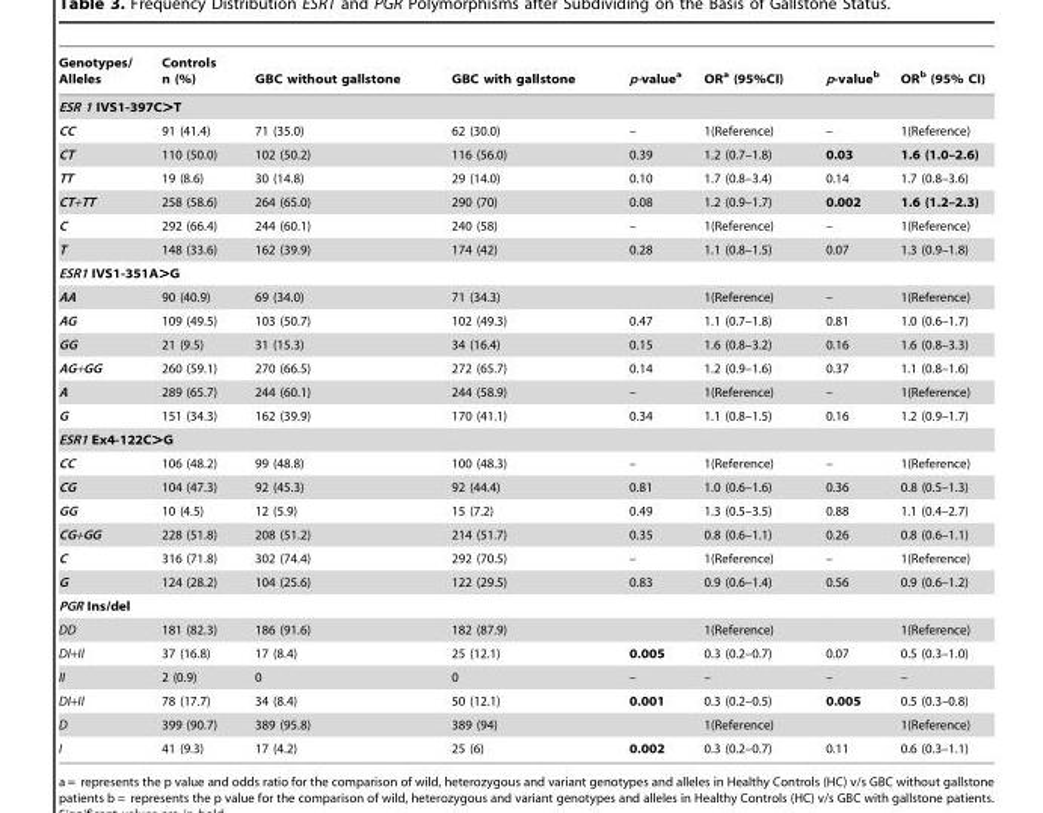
<table><thead><tr><td>Genotypes/ Alleles</td><td>Controls n (%)</td><td>GBC without gallstone</td><td>GBC with gallstone</td><td>p-value<sup>a</sup></td><td>OR<sup>a</sup> (95%CI)</td><td>p-value<sup>b</sup></td><td>OR<sup>b</sup> (95% CI)</td></tr></thead><tbody><tr><td colspan="8">ESR 1 IVS1-397C&gt;T</td></tr><tr><td>CC</td><td>91 (41.4)</td><td>71 (35.0)</td><td>62 (30.0)</td><td>–</td><td>1(Reference)</td><td>–</td><td>1(Reference)</td></tr><tr><td>CT</td><td>110 (50.0)</td><td>102 (50.2)</td><td>116 (56.0)</td><td>0.39</td><td>1.2 (0.7–1.8)</td><td>0.03</td><td>1.6 (1.0–2.6)</td></tr><tr><td>TT</td><td>19 (8.6)</td><td>30 (14.8)</td><td>29 (14.0)</td><td>0.10</td><td>1.7 (0.8–3.4)</td><td>0.14</td><td>1.7 (0.8–3.6)</td></tr><tr><td>CT+TT</td><td>258 (58.6)</td><td>264 (65.0)</td><td>290 (70)</td><td>0.08</td><td>1.2 (0.9–1.7)</td><td>0.002</td><td>1.6 (1.2–2.3)</td></tr><tr><td>C</td><td>292 (66.4)</td><td>244 (60.1)</td><td>240 (58)</td><td>–</td><td>1(Reference)</td><td>–</td><td>1(Reference)</td></tr><tr><td>T</td><td>148 (33.6)</td><td>162 (39.9)</td><td>174 (42)</td><td>0.28</td><td>1.1 (0.8–1.5)</td><td>0.07</td><td>1.3 (0.9–1.8)</td></tr><tr><td colspan="8">ESR1 IVS1-351A&gt;G</td></tr><tr><td>AA</td><td>90 (40.9)</td><td>69 (34.0)</td><td>71 (34.3)</td><td></td><td>1(Reference)</td><td>–</td><td>1(Reference)</td></tr><tr><td>AG</td><td>109 (49.5)</td><td>103 (50.7)</td><td>102 (49.3)</td><td>0.47</td><td>1.1 (0.7–1.8)</td><td>0.81</td><td>1.0 (0.6–1.7)</td></tr><tr><td>GG</td><td>21 (9.5)</td><td>31 (15.3)</td><td>34 (16.4)</td><td>0.15</td><td>1.6 (0.8–3.2)</td><td>0.16</td><td>1.6 (0.8–3.3)</td></tr><tr><td>AG+GG</td><td>260 (59.1)</td><td>270 (66.5)</td><td>272 (65.7)</td><td>0.14</td><td>1.2 (0.9–1.6)</td><td>0.37</td><td>1.1 (0.8–1.6)</td></tr><tr><td>A</td><td>289 (65.7)</td><td>244 (60.1)</td><td>244 (58.9)</td><td>–</td><td>1(Reference)</td><td>–</td><td>1(Reference)</td></tr><tr><td>G</td><td>151 (34.3)</td><td>162 (39.9)</td><td>170 (41.1)</td><td>0.34</td><td>1.1 (0.8–1.5)</td><td>0.16</td><td>1.2 (0.9–1.7)</td></tr><tr><td colspan="8">ESR1 Ex4-122C&gt;G</td></tr><tr><td>CC</td><td>106 (48.2)</td><td>99 (48.8)</td><td>100 (48.3)</td><td>–</td><td>1(Reference)</td><td>–</td><td>1(Reference)</td></tr><tr><td>CG</td><td>104 (47.3)</td><td>92 (45.3)</td><td>92 (44.4)</td><td>0.81</td><td>1.0 (0.6–1.6)</td><td>0.36</td><td>0.8 (0.5–1.3)</td></tr><tr><td>GG</td><td>10 (4.5)</td><td>12 (5.9)</td><td>15 (7.2)</td><td>0.49</td><td>1.3 (0.5–3.5)</td><td>0.88</td><td>1.1 (0.4–2.7)</td></tr><tr><td>CG+GG</td><td>228 (51.8)</td><td>208 (51.2)</td><td>214 (51.7)</td><td>0.35</td><td>0.8 (0.6–1.1)</td><td>0.26</td><td>0.8 (0.6–1.1)</td></tr><tr><td>C</td><td>316 (71.8)</td><td>302 (74.4)</td><td>292 (70.5)</td><td>–</td><td>1(Reference)</td><td>–</td><td>1(Reference)</td></tr><tr><td>G</td><td>124 (28.2)</td><td>104 (25.6)</td><td>122 (29.5)</td><td>0.83</td><td>0.9 (0.6–1.4)</td><td>0.56</td><td>0.9 (0.6–1.2)</td></tr><tr><td colspan="8">PGR Ins/del</td></tr><tr><td>DD</td><td>181 (82.3)</td><td>186 (91.6)</td><td>182 (87.9)</td><td></td><td>1(Reference)</td><td></td><td>1(Reference)</td></tr><tr><td>DI+II</td><td>37 (16.8)</td><td>17 (8.4)</td><td>25 (12.1)</td><td>0.005</td><td>0.3 (0.2–0.7)</td><td>0.07</td><td>0.5 (0.3–1.0)</td></tr><tr><td>II</td><td>2 (0.9)</td><td>0</td><td>0</td><td>–</td><td>–</td><td>–</td><td>–</td></tr><tr><td>DI+II</td><td>78 (17.7)</td><td>34 (8.4)</td><td>50 (12.1)</td><td>0.001</td><td>0.3 (0.2–0.5)</td><td>0.005</td><td>0.5 (0.3–0.8)</td></tr><tr><td>D</td><td>399 (90.7)</td><td>389 (95.8)</td><td>389 (94)</td><td></td><td>1(Reference)</td><td></td><td>1(Reference)</td></tr><tr><td>I</td><td>41 (9.3)</td><td>17 (4.2)</td><td>25 (6)</td><td>0.002</td><td>0.3 (0.2–0.7)</td><td>0.11</td><td>0.6 (0.3–1.1)</td></tr></tbody></table>